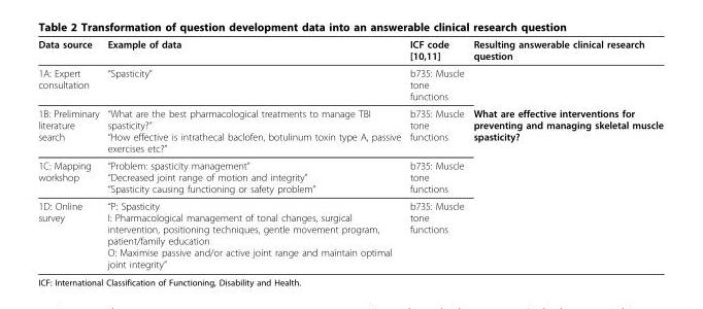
<table><thead><tr><td>Data source</td><td>Example of data</td><td>ICF code [10,11]</td><td>Resulting answerable clinical research question</td></tr></thead><tbody><tr><td>1A: Expert consultation</td><td>“Spasticity”</td><td>b735: Muscle tone functions</td><td></td></tr><tr><td>1B: Preliminary literature search</td><td>“What are the best pharmacological treatments to manage TBI spasticity?” “How effective is intrathecal baclofen, botulinum toxin type A, passive exercises etc?”</td><td>b735: Muscle tone functions</td><td>What are effective interventions for preventing and managing skeletal muscle spasticity?</td></tr><tr><td>1C: Mapping workshop</td><td>“Problem: spasticity management” “Decreased joint range of motion and integrity” “Spasticity causing functioning or safety problem”</td><td>b735: Muscle tone functions</td><td></td></tr><tr><td>1D: Online survey</td><td>“P: Spasticity I: Pharmacological management of tonal changes, surgical intervention, positioning techniques, gentle movement program, patient/family education O: Maximise passive and/or active joint range and maintain optimal joint integrity”</td><td>b735: Muscle tone functions</td><td></td></tr></tbody></table>